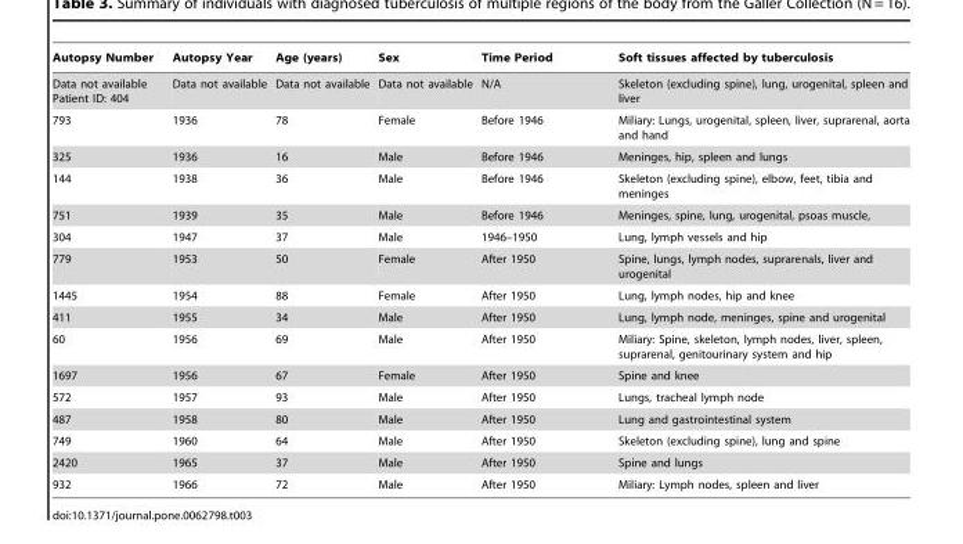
<table><thead><tr><td>Autopsy Number</td><td>Autopsy Year</td><td>Age (years)</td><td>Sex</td><td>Time Period</td><td>Soft tissues affected by tuberculosis</td></tr></thead><tbody><tr><td>Data not available Patient ID: 404</td><td>Data not available</td><td>Data not available</td><td>Data not available</td><td>N/A</td><td>Skeleton (excluding spine), lung, urogenital, spleen and liver</td></tr><tr><td>793</td><td>1936</td><td>78</td><td>Female</td><td>Before 1946</td><td>Miliary: Lungs, urogenital, spleen, liver, suprarenal, aorta and hand</td></tr><tr><td>325</td><td>1936</td><td>16</td><td>Male</td><td>Before 1946</td><td>Meninges, hip, spleen and lungs</td></tr><tr><td>144</td><td>1938</td><td>36</td><td>Male</td><td>Before 1946</td><td>Skeleton (excluding spine), elbow, feet, tibia and meninges</td></tr><tr><td>751</td><td>1939</td><td>35</td><td>Male</td><td>Before 1946</td><td>Meninges, spine, lung, urogenital, psoas muscle,</td></tr><tr><td>304</td><td>1947</td><td>37</td><td>Male</td><td>1946–1950</td><td>Lung, lymph vessels and hip</td></tr><tr><td>779</td><td>1953</td><td>50</td><td>Female</td><td>After 1950</td><td>Spine, lungs, lymph nodes, suprarenals, liver and urogenital</td></tr><tr><td>1445</td><td>1954</td><td>88</td><td>Female</td><td>After 1950</td><td>Lung, lymph nodes, hip and knee</td></tr><tr><td>411</td><td>1955</td><td>34</td><td>Male</td><td>After 1950</td><td>Lung, lymph node, meninges, spine and urogenital</td></tr><tr><td>60</td><td>1956</td><td>69</td><td>Male</td><td>After 1950</td><td>Miliary: Spine, skeleton, lymph nodes, liver, spleen, suprarenal, genitourinary system and hip</td></tr><tr><td>1697</td><td>1956</td><td>67</td><td>Female</td><td>After 1950</td><td>Spine and knee</td></tr><tr><td>572</td><td>1957</td><td>93</td><td>Male</td><td>After 1950</td><td>Lungs, tracheal lymph node</td></tr><tr><td>487</td><td>1958</td><td>80</td><td>Male</td><td>After 1950</td><td>Lung and gastrointestinal system</td></tr><tr><td>749</td><td>1960</td><td>64</td><td>Male</td><td>After 1950</td><td>Skeleton (excluding spine), lung and spine</td></tr><tr><td>2420</td><td>1965</td><td>37</td><td>Male</td><td>After 1950</td><td>Spine and lungs</td></tr><tr><td>932</td><td>1966</td><td>72</td><td>Male</td><td>After 1950</td><td>Miliary: Lymph nodes, spleen and liver</td></tr></tbody></table>